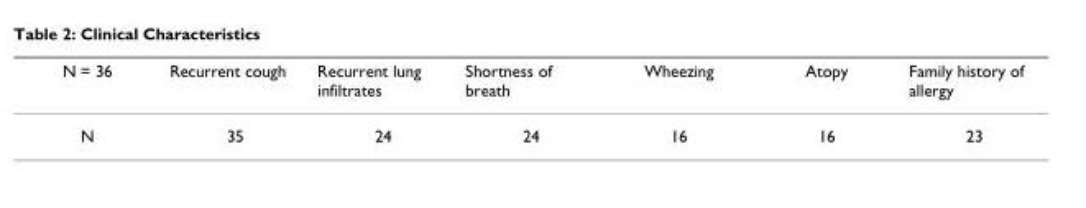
<table><thead><tr><td>N = 36</td><td>Recurrent cough</td><td>Recurrent lung infiltrates</td><td>Shortness of breath</td><td>Wheezing</td><td>Atopy</td><td>Family history of allergy</td></tr></thead><tbody><tr><td>N</td><td>35</td><td>24</td><td>24</td><td>16</td><td>16</td><td>23</td></tr></tbody></table>